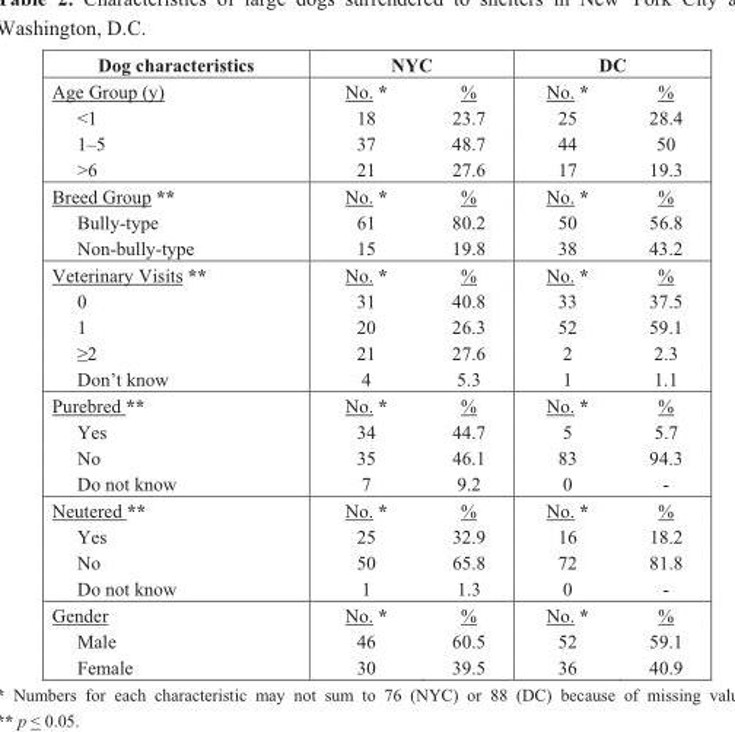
<table><thead><tr><td rowspan="2">Dog characteristics Age Group (y)</td><td colspan="2">NYC</td><td colspan="2">DC</td></tr><tr><td>No. *</td><td>%</td><td>No. *</td><td>%</td></tr></thead><tbody><tr><td>&lt;1</td><td>18</td><td>23.7</td><td>25</td><td>28.4</td></tr><tr><td>1–5</td><td>37</td><td>48.7</td><td>44</td><td>50</td></tr><tr><td>&gt;6</td><td>21</td><td>27.6</td><td>17</td><td>19.3</td></tr><tr><td>Breed Group **</td><td>No. *</td><td>%</td><td>No. *</td><td>%</td></tr><tr><td>Bully-type</td><td>61</td><td>80.2</td><td>50</td><td>56.8</td></tr><tr><td>Non-bully-type</td><td>15</td><td>19.8</td><td>38</td><td>43.2</td></tr><tr><td>Veterinary Visits **</td><td>No. *</td><td>%</td><td>No. *</td><td>%</td></tr><tr><td>0</td><td>31</td><td>40.8</td><td>33</td><td>37.5</td></tr><tr><td>1</td><td>20</td><td>26.3</td><td>52</td><td>59.1</td></tr><tr><td>≥2</td><td>21</td><td>27.6</td><td>2</td><td>2.3</td></tr><tr><td>Don’t know</td><td>4</td><td>5.3</td><td>1</td><td>1.1</td></tr><tr><td>Purebred **</td><td>No. *</td><td>%</td><td>No. *</td><td>%</td></tr><tr><td>Yes</td><td>34</td><td>44.7</td><td>5</td><td>5.7</td></tr><tr><td>No</td><td>35</td><td>46.1</td><td>83</td><td>94.3</td></tr><tr><td>Do not know</td><td>7</td><td>9.2</td><td>0</td><td>-</td></tr><tr><td>Neutered **</td><td>No. *</td><td>%</td><td>No. *</td><td>%</td></tr><tr><td>Yes</td><td>25</td><td>32.9</td><td>16</td><td>18.2</td></tr><tr><td>No</td><td>50</td><td>65.8</td><td>72</td><td>81.8</td></tr><tr><td>Do not know</td><td>1</td><td>1.3</td><td>0</td><td>-</td></tr><tr><td>Gender</td><td>No. *</td><td>%</td><td>No. *</td><td>%</td></tr><tr><td>Male</td><td>46</td><td>60.5</td><td>52</td><td>59.1</td></tr><tr><td>Female</td><td>30</td><td>39.5</td><td>36</td><td>40.9</td></tr></tbody></table>